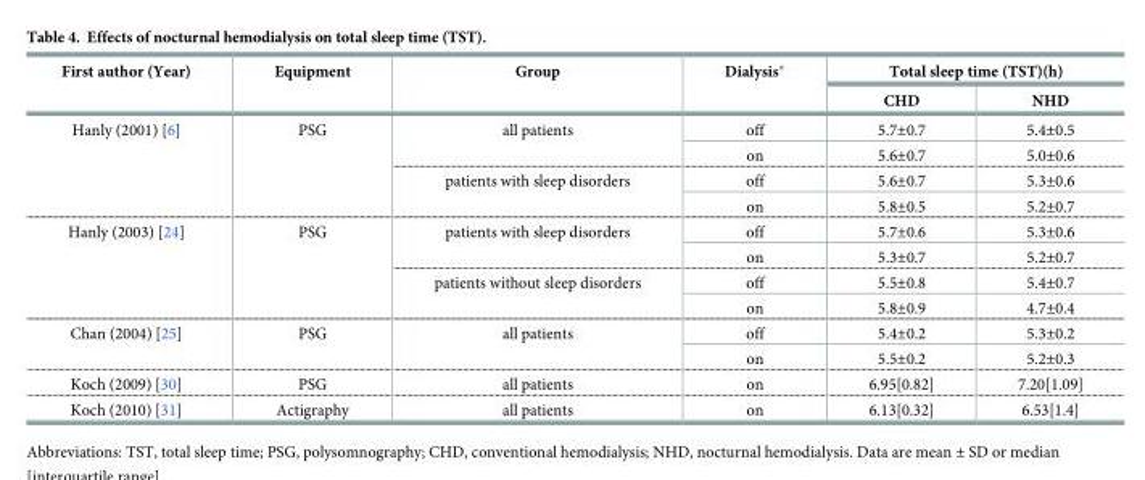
<table><thead><tr><td rowspan="2">First author (Year)</td><td rowspan="2">Equipment</td><td rowspan="2">Group</td><td rowspan="2">Dialysis*</td><td colspan="2">Total sleep time (TST)(h)</td></tr><tr><td>CHD</td><td>NHD</td></tr></thead><tbody><tr><td rowspan="4">Hanly (2001) [6]</td><td rowspan="4">PSG</td><td rowspan="2">all patients</td><td>off</td><td>5.7±0.7</td><td>5.4±0.5</td></tr><tr><td>on</td><td>5.6±0.7</td><td>5.0±0.6</td></tr><tr><td rowspan="2">patients with sleep disorders</td><td>off</td><td>5.6±0.7</td><td>5.3±0.6</td></tr><tr><td>on</td><td>5.8±0.5</td><td>5.2±0.7</td></tr><tr><td rowspan="4">Hanly (2003) [24]</td><td rowspan="4">PSG</td><td rowspan="2">patients with sleep disorders</td><td>off</td><td>5.7±0.6</td><td>5.3±0.6</td></tr><tr><td>on</td><td>5.3±0.7</td><td>5.2±0.7</td></tr><tr><td rowspan="2">patients without sleep disorders</td><td>off</td><td>5.5±0.8</td><td>5.4±0.7</td></tr><tr><td>on</td><td>5.8±0.9</td><td>4.7±0.4</td></tr><tr><td rowspan="2">Chan (2004) [25]</td><td rowspan="2">PSG</td><td rowspan="2">all patients</td><td>off</td><td>5.4±0.2</td><td>5.3±0.2</td></tr><tr><td>on</td><td>5.5±0.2</td><td>5.2±0.3</td></tr><tr><td>Koch (2009) [30]</td><td>PSG</td><td>all patients</td><td>on</td><td>6.95[0.82]</td><td>7.20[1.09]</td></tr><tr><td>Koch (2010) [31]</td><td>Actigraphy</td><td>all patients</td><td>on</td><td>6.13[0.32]</td><td>6.53[1.4]</td></tr></tbody></table>